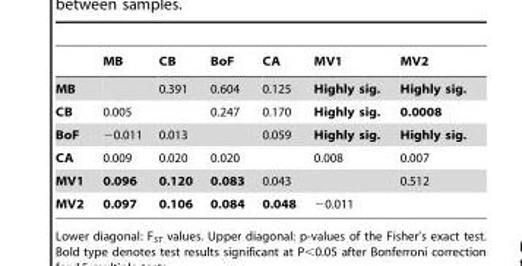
<table><thead><tr><td></td><td>MB</td><td>CB</td><td>BoF</td><td>CA</td><td>MV1</td><td>MV2</td></tr></thead><tbody><tr><td>MB</td><td></td><td>0.391</td><td>0.604</td><td>0.125</td><td>Highly sig.</td><td>Highly sig.</td></tr><tr><td>CB</td><td>0.005</td><td></td><td>0.247</td><td>0.170</td><td>Highly sig.</td><td>0.0008</td></tr><tr><td>BoF</td><td>−0.011</td><td>0.013</td><td></td><td>0.059</td><td>Highly sig.</td><td>Highly sig.</td></tr><tr><td>CA</td><td>0.009</td><td>0.020</td><td>0.020</td><td></td><td>0.008</td><td>0.007</td></tr><tr><td>MV1</td><td>0.096</td><td>0.120</td><td>0.083</td><td>0.043</td><td></td><td>0.512</td></tr><tr><td>MV2</td><td>0.097</td><td>0.106</td><td>0.084</td><td>0.048</td><td>−0.011</td><td></td></tr></tbody></table>